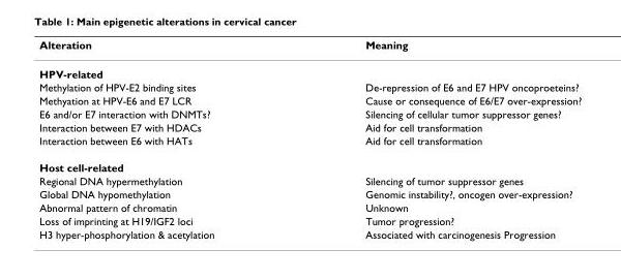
<table><thead><tr><td>Alteration</td><td>Meaning</td></tr></thead><tbody><tr><td colspan="2">HPV-related</td></tr><tr><td>Methylation of HPV-E2 binding sites</td><td>De-repression of E6 and E7 HPV oncoproeteins?</td></tr><tr><td>Methyation at HPV-E6 and E7 LCR</td><td>Cause or consequence of E6/E7 over-expression?</td></tr><tr><td>E6 and/or E7 interaction with DNMTs?</td><td>Silencing of cellular tumor suppressor genes?</td></tr><tr><td>Interaction between E7 with HDACs</td><td>Aid for cell transformation</td></tr><tr><td>Interaction between E6 with HATs</td><td>Aid for cell transformation</td></tr><tr><td colspan="2">Host cell-related</td></tr><tr><td>Regional DNA hypermethylation</td><td>Silencing of tumor suppressor genes</td></tr><tr><td>Global DNA hypomethylation</td><td>Genomic instability?, oncogen over-expression?</td></tr><tr><td>Abnormal pattern of chromatin</td><td>Unknown</td></tr><tr><td>Loss of imprinting at H19/IGF2 loci</td><td>Tumor progression?</td></tr><tr><td>H3 hyper-phosphorylation &amp; acetylation</td><td>Associated with carcinogenesis Progression</td></tr></tbody></table>